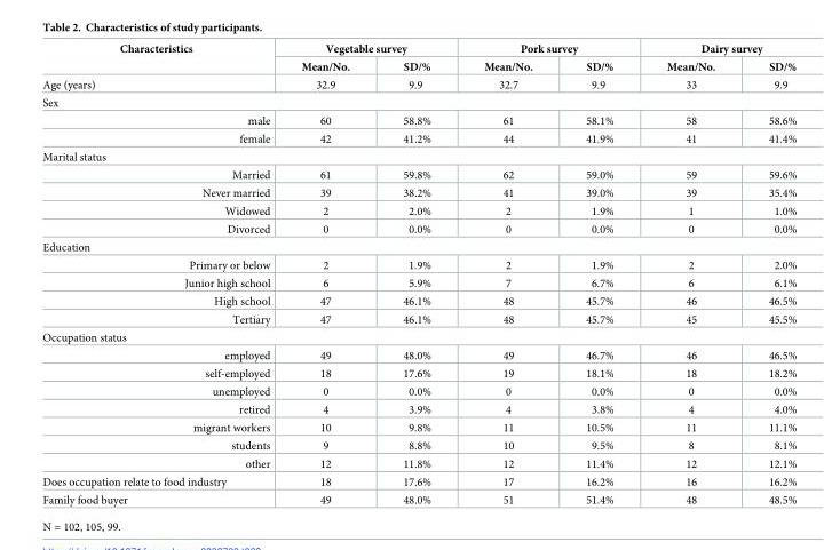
<table><thead><tr><td rowspan="2">Characteristics</td><td colspan="2">Vegetable survey</td><td colspan="2">Pork survey</td><td colspan="2">Dairy survey</td></tr><tr><td>Mean/No.</td><td>SD/%</td><td>Mean/No.</td><td>SD/%</td><td>Mean/No.</td><td>SD/%</td></tr></thead><tbody><tr><td>Age (years)</td><td>32.9</td><td>9.9</td><td>32.7</td><td>9.9</td><td>33</td><td>9.9</td></tr><tr><td colspan="7">Sex</td></tr><tr><td>male</td><td>60</td><td>58.8%</td><td>61</td><td>58.1%</td><td>58</td><td>58.6%</td></tr><tr><td>female</td><td>42</td><td>41.2%</td><td>44</td><td>41.9%</td><td>41</td><td>41.4%</td></tr><tr><td colspan="7">Marital status</td></tr><tr><td>Married</td><td>61</td><td>59.8%</td><td>62</td><td>59.0%</td><td>59</td><td>59.6%</td></tr><tr><td>Never married</td><td>39</td><td>38.2%</td><td>41</td><td>39.0%</td><td>39</td><td>35.4%</td></tr><tr><td>Widowed</td><td>2</td><td>2.0%</td><td>2</td><td>1.9%</td><td>1</td><td>1.0%</td></tr><tr><td>Divorced</td><td>0</td><td>0.0%</td><td>0</td><td>0.0%</td><td>0</td><td>0.0%</td></tr><tr><td colspan="7">Education</td></tr><tr><td>Primary or below</td><td>2</td><td>1.9%</td><td>2</td><td>1.9%</td><td>2</td><td>2.0%</td></tr><tr><td>Junior high school</td><td>6</td><td>5.9%</td><td>7</td><td>6.7%</td><td>6</td><td>6.1%</td></tr><tr><td>High school</td><td>47</td><td>46.1%</td><td>48</td><td>45.7%</td><td>46</td><td>46.5%</td></tr><tr><td>Tertiary</td><td>47</td><td>46.1%</td><td>48</td><td>45.7%</td><td>45</td><td>45.5%</td></tr><tr><td colspan="7">Occupation status</td></tr><tr><td>employed</td><td>49</td><td>48.0%</td><td>49</td><td>46.7%</td><td>46</td><td>46.5%</td></tr><tr><td>self-employed</td><td>18</td><td>17.6%</td><td>19</td><td>18.1%</td><td>18</td><td>18.2%</td></tr><tr><td>unemployed</td><td>0</td><td>0.0%</td><td>0</td><td>0.0%</td><td>0</td><td>0.0%</td></tr><tr><td>retired</td><td>4</td><td>3.9%</td><td>4</td><td>3.8%</td><td>4</td><td>4.0%</td></tr><tr><td>migrant workers</td><td>10</td><td>9.8%</td><td>11</td><td>10.5%</td><td>11</td><td>11.1%</td></tr><tr><td>students</td><td>9</td><td>8.8%</td><td>10</td><td>9.5%</td><td>8</td><td>8.1%</td></tr><tr><td>other</td><td>12</td><td>11.8%</td><td>12</td><td>11.4%</td><td>12</td><td>12.1%</td></tr><tr><td>Does occupation relate to food industry</td><td>18</td><td>17.6%</td><td>17</td><td>16.2%</td><td>16</td><td>16.2%</td></tr><tr><td>Family food buyer</td><td>49</td><td>48.0%</td><td>51</td><td>51.4%</td><td>48</td><td>48.5%</td></tr></tbody></table>